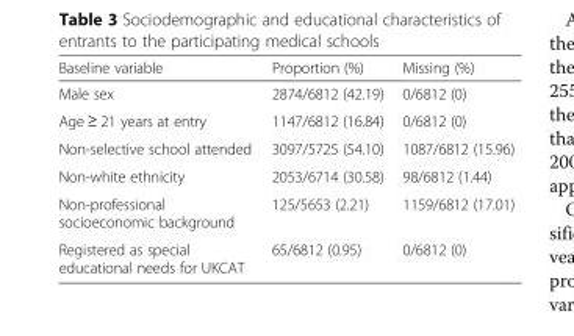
<table><thead><tr><td>Baseline variable</td><td>Proportion (%)</td><td>Missing (%)</td></tr></thead><tbody><tr><td>Male sex</td><td>2874/6812 (42.19)</td><td>0/6812 (0)</td></tr><tr><td>Age ≥ 21 years at entry</td><td>1147/6812 (16.84)</td><td>0/6812 (0)</td></tr><tr><td>Non-selective school attended</td><td>3097/5725 (54.10)</td><td>1087/6812 (15.96)</td></tr><tr><td>Non-white ethnicity</td><td>2053/6714 (30.58)</td><td>98/6812 (1.44)</td></tr><tr><td>Non-professional socioeconomic background</td><td>125/5653 (2.21)</td><td>1159/6812 (17.01)</td></tr><tr><td>Registered as special educational needs for UKCAT</td><td>65/6812 (0.95)</td><td>0/6812 (0)</td></tr></tbody></table>